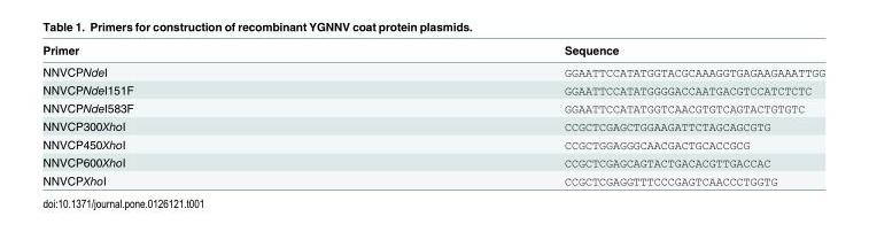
<table><thead><tr><td>Primer</td><td>Sequence</td></tr></thead><tbody><tr><td>NNVCPNdeI</td><td>GGAATTCCATATGGTACGCAAAGGTGAGAAGAAATTGG</td></tr><tr><td>NNVCPNdeI151F</td><td>GGAATTCCATATGGGGACCAATGACGTCCATCTCTC</td></tr><tr><td>NNVCPNdeI583F</td><td>GGAATTCCATATGGTCAACGTGTCAGTACTGTGTC</td></tr><tr><td>NNVCP300XhoI</td><td>CCGCTCGAGCTGGAAGATTCTAGCAGCGTG</td></tr><tr><td>NNVCP450XhoI</td><td>CCGCTGGAGGGCAACGACTGCACCGCG</td></tr><tr><td>NNVCP600XhoI</td><td>CCGCTCGAGCAGTACTGACACGTTGACCAC</td></tr><tr><td>NNVCPXhoI</td><td>CCGCTCGAGGTTTCCCGAGTCAACCCTGGTG</td></tr></tbody></table>